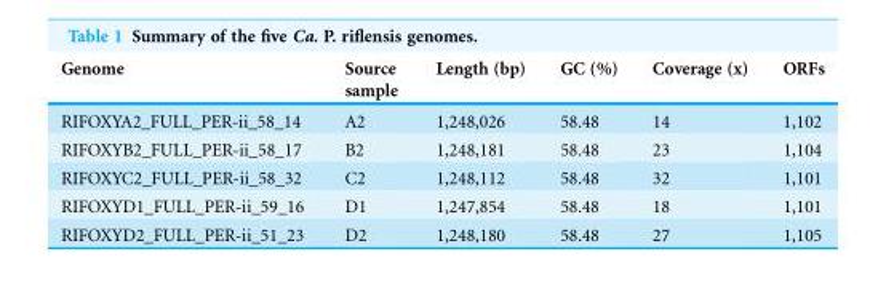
<table><thead><tr><td>Genome</td><td>Source sample</td><td>Length (bp)</td><td>GC (%)</td><td>Coverage (x)</td><td>ORFs</td></tr></thead><tbody><tr><td>RIFOXYA2_FULL_PER-ii_58_14</td><td>A2</td><td>1,248,026</td><td>58.48</td><td>14</td><td>1,102</td></tr><tr><td>RIFOXYB2_FULL_PER-ii_58_17</td><td>B2</td><td>1,248,181</td><td>58.48</td><td>23</td><td>1,104</td></tr><tr><td>RIFOXYC2_FULL_PER-ii_58_32</td><td>C2</td><td>1,248,112</td><td>58.48</td><td>32</td><td>1,101</td></tr><tr><td>RIFOXYD1_FULL_PER-ii_59_16</td><td>D1</td><td>1,247,854</td><td>58.48</td><td>18</td><td>1,101</td></tr><tr><td>RIFOXYD2_FULL_PER-ii_51_23</td><td>D2</td><td>1,248,180</td><td>58.48</td><td>27</td><td>1,105</td></tr></tbody></table>